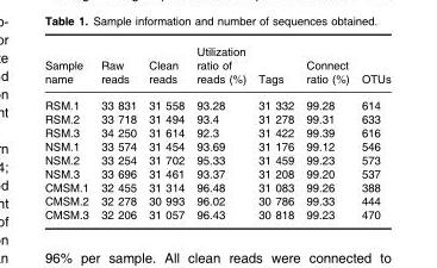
<table><thead><tr><td>Sample name</td><td>Raw reads</td><td>Clean reads</td><td>Utilization ratio of reads (%)</td><td>Tags</td><td>Connect ratio (%)</td><td>OTUs</td></tr></thead><tbody><tr><td>RSM.1</td><td>33 831</td><td>31 558</td><td>93.28</td><td>31 332</td><td>99.28</td><td>614</td></tr><tr><td>RSM.2</td><td>33 718</td><td>31 494</td><td>93.4</td><td>31 278</td><td>99.31</td><td>633</td></tr><tr><td>RSM.3</td><td>34 250</td><td>31 614</td><td>92.3</td><td>31 422</td><td>99.39</td><td>616</td></tr><tr><td>NSM.1</td><td>33 574</td><td>31 454</td><td>93.69</td><td>31 176</td><td>99.12</td><td>546</td></tr><tr><td>NSM.2</td><td>33 254</td><td>31 702</td><td>95.33</td><td>31 459</td><td>99.23</td><td>573</td></tr><tr><td>NSM.3</td><td>33 696</td><td>31 461</td><td>93.37</td><td>31 208</td><td>99.20</td><td>537</td></tr><tr><td>CMSM.1</td><td>32 455</td><td>31 314</td><td>96.48</td><td>31 083</td><td>99.26</td><td>388</td></tr><tr><td>CMSM.2</td><td>32 278</td><td>30 993</td><td>96.02</td><td>30 786</td><td>99.33</td><td>444</td></tr><tr><td>CMSM.3</td><td>32 206</td><td>31 057</td><td>96.43</td><td>30 818</td><td>99.23</td><td>470</td></tr></tbody></table>